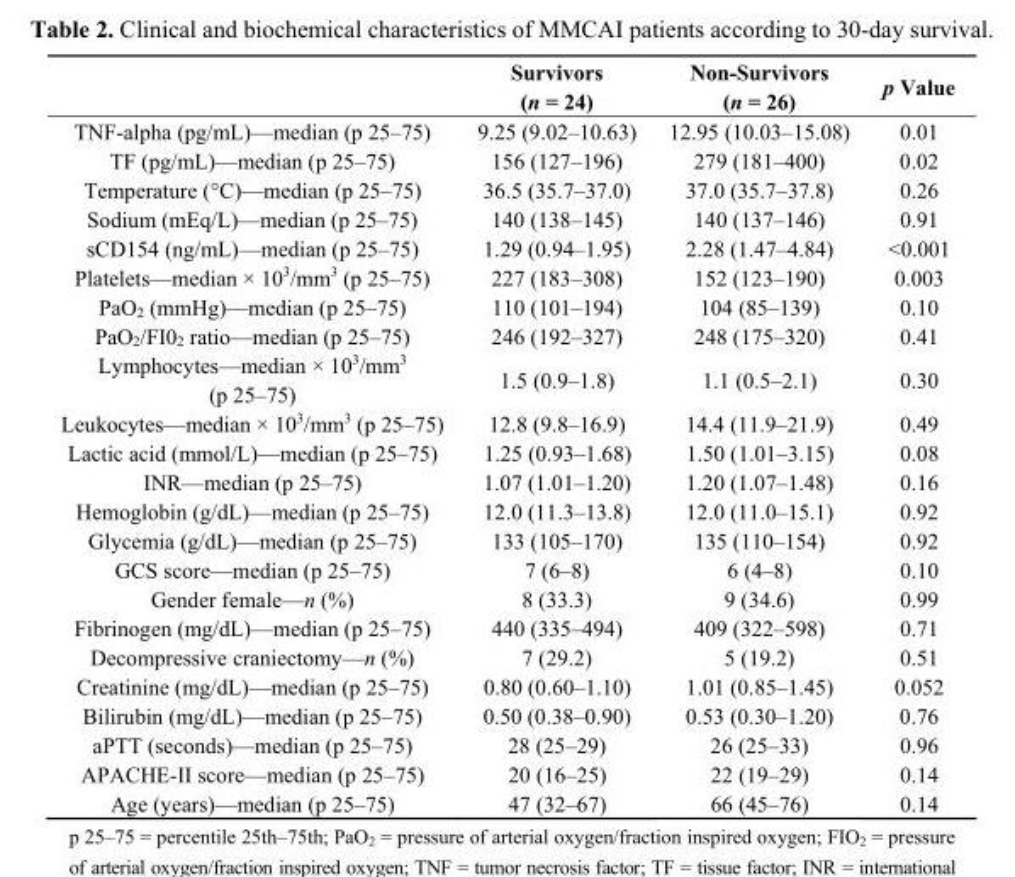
<table><thead><tr><td></td><td>Survivors (n = 24)</td><td>Non-Survivors (n = 26)</td><td>p Value</td></tr></thead><tbody><tr><td>TNF-alpha (pg/mL)—median (p 25–75)</td><td>9.25 (9.02–10.63)</td><td>12.95 (10.03–15.08)</td><td>0.01</td></tr><tr><td>TF (pg/mL)—median (p 25–75)</td><td>156 (127–196)</td><td>279 (181–400)</td><td>0.02</td></tr><tr><td>Temperature (°C)—median (p 25–75)</td><td>36.5 (35.7–37.0)</td><td>37.0 (35.7–37.8)</td><td>0.26</td></tr><tr><td>Sodium (mEq/L)—median (p 25–75)</td><td>140 (138–145)</td><td>140 (137–146)</td><td>0.91</td></tr><tr><td>sCD154 (ng/mL)—median (p 25–75)</td><td>1.29 (0.94–1.95)</td><td>2.28 (1.47–4.84)</td><td>&lt;0.001</td></tr><tr><td>Platelets—median × 10<sup>3</sup>/mm<sup>3</sup> (p 25–75)</td><td>227 (183–308)</td><td>152 (123–190)</td><td>0.003</td></tr><tr><td>PaO<sub>2</sub> (mmHg)—median (p 25–75)</td><td>110 (101–194)</td><td>104 (85–139)</td><td>0.10</td></tr><tr><td>PaO<sub>2</sub>/FI0<sub>2</sub> ratio—median (p 25–75)</td><td>246 (192–327)</td><td>248 (175–320)</td><td>0.41</td></tr><tr><td>Lymphocytes—median × 10<sup>3</sup>/mm<sup>3</sup> (p 25–75)</td><td>1.5 (0.9–1.8)</td><td>1.1 (0.5–2.1)</td><td>0.30</td></tr><tr><td>Leukocytes—median × 10<sup>3</sup>/mm<sup>3</sup> (p 25–75)</td><td>12.8 (9.8–16.9)</td><td>14.4 (11.9–21.9)</td><td>0.49</td></tr><tr><td>Lactic acid (mmol/L)—median (p 25–75)</td><td>1.25 (0.93–1.68)</td><td>1.50 (1.01–3.15)</td><td>0.08</td></tr><tr><td>INR—median (p 25–75)</td><td>1.07 (1.01–1.20)</td><td>1.20 (1.07–1.48)</td><td>0.16</td></tr><tr><td>Hemoglobin (g/dL)—median (p 25–75)</td><td>12.0 (11.3–13.8)</td><td>12.0 (11.0–15.1)</td><td>0.92</td></tr><tr><td>Glycemia (g/dL)—median (p 25–75)</td><td>133 (105–170)</td><td>135 (110–154)</td><td>0.92</td></tr><tr><td>GCS score—median (p 25–75)</td><td>7 (6–8)</td><td>6 (4–8)</td><td>0.10</td></tr><tr><td>Gender female—n (%)</td><td>8 (33.3)</td><td>9 (34.6)</td><td>0.99</td></tr><tr><td>Fibrinogen (mg/dL)—median (p 25–75)</td><td>440 (335–494)</td><td>409 (322–598)</td><td>0.71</td></tr><tr><td>Decompressive craniectomy—n (%)</td><td>7 (29.2)</td><td>5 (19.2)</td><td>0.51</td></tr><tr><td>Creatinine (mg/dL)—median (p 25–75)</td><td>0.80 (0.60–1.10)</td><td>1.01 (0.85–1.45)</td><td>0.052</td></tr><tr><td>Bilirubin (mg/dL)—median (p 25–75)</td><td>0.50 (0.38–0.90)</td><td>0.53 (0.30–1.20)</td><td>0.76</td></tr><tr><td>aPTT (seconds)—median (p 25–75)</td><td>28 (25–29)</td><td>26 (25–33)</td><td>0.96</td></tr><tr><td>APACHE-II score—median (p 25–75)</td><td>20 (16–25)</td><td>22 (19–29)</td><td>0.14</td></tr><tr><td>Age (years)—median (p 25–75)</td><td>47 (32–67)</td><td>66 (45–76)</td><td>0.14</td></tr></tbody></table>